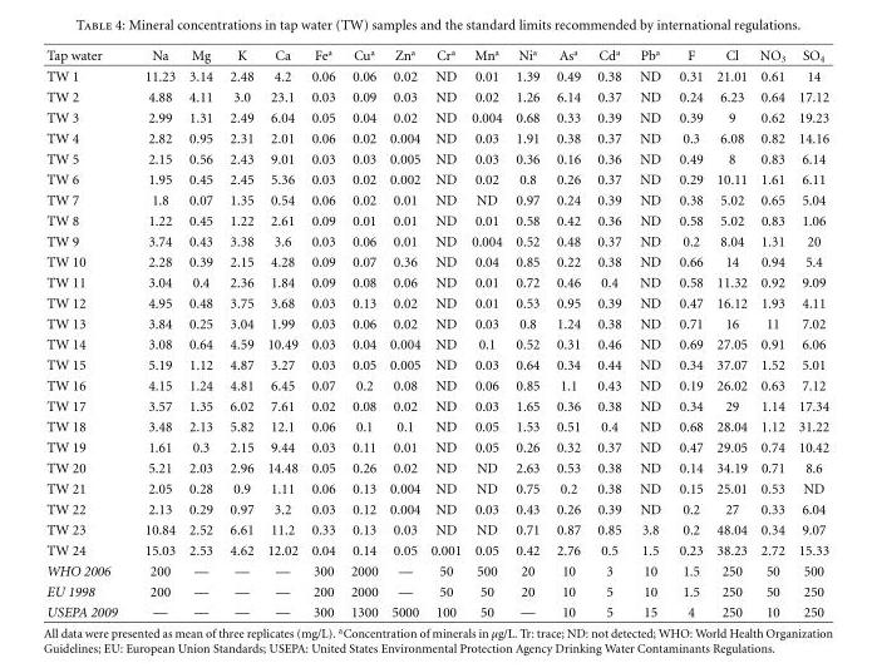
<table><thead><tr><td>Tap water</td><td>Na</td><td>Mg</td><td>K</td><td>Ca</td><td>Fe<sup>a</sup></td><td>Cu<sup>a</sup></td><td>Zn<sup>a</sup></td><td>Cr<sup>a</sup></td><td>Mn<sup>a</sup></td><td>Ni<sup>a</sup></td><td>As<sup>a</sup></td><td>Cd<sup>a</sup></td><td>Pb<sup>a</sup></td><td>F</td><td>Cl</td><td>NO<sub>3</sub></td><td>SO<sub>4</sub></td></tr></thead><tbody><tr><td>TW 1</td><td>11.23</td><td>3.14</td><td>2.48</td><td>4.2</td><td>0.06</td><td>0.06</td><td>0.02</td><td>ND</td><td>0.01</td><td>1.39</td><td>0.49</td><td>0.38</td><td>ND</td><td>0.31</td><td>21.01</td><td>0.61</td><td>14</td></tr><tr><td>TW 2</td><td>4.88</td><td>4.11</td><td>3.0</td><td>23.1</td><td>0.03</td><td>0.09</td><td>0.03</td><td>ND</td><td>0.02</td><td>1.26</td><td>6.14</td><td>0.37</td><td>ND</td><td>0.24</td><td>6.23</td><td>0.64</td><td>17.12</td></tr><tr><td>TW 3</td><td>2.99</td><td>1.31</td><td>2.49</td><td>6.04</td><td>0.05</td><td>0.04</td><td>0.02</td><td>ND</td><td>0.004</td><td>0.68</td><td>0.33</td><td>0.39</td><td>ND</td><td>0.39</td><td>9</td><td>0.62</td><td>19.23</td></tr><tr><td>TW 4</td><td>2.82</td><td>0.95</td><td>2.31</td><td>2.01</td><td>0.06</td><td>0.02</td><td>0.004</td><td>ND</td><td>0.03</td><td>1.91</td><td>0.38</td><td>0.37</td><td>ND</td><td>0.3</td><td>6.08</td><td>0.82</td><td>14.16</td></tr><tr><td>TW 5</td><td>2.15</td><td>0.56</td><td>2.43</td><td>9.01</td><td>0.03</td><td>0.03</td><td>0.005</td><td>ND</td><td>0.03</td><td>0.36</td><td>0.16</td><td>0.36</td><td>ND</td><td>0.49</td><td>8</td><td>0.83</td><td>6.14</td></tr><tr><td>TW 6</td><td>1.95</td><td>0.45</td><td>2.45</td><td>5.36</td><td>0.03</td><td>0.02</td><td>0.002</td><td>ND</td><td>0.02</td><td>0.8</td><td>0.26</td><td>0.37</td><td>ND</td><td>0.29</td><td>10.11</td><td>1.61</td><td>6.11</td></tr><tr><td>TW 7</td><td>1.8</td><td>0.07</td><td>1.35</td><td>0.54</td><td>0.06</td><td>0.02</td><td>0.01</td><td>ND</td><td>ND</td><td>0.97</td><td>0.24</td><td>0.39</td><td>ND</td><td>0.38</td><td>5.02</td><td>0.65</td><td>5.04</td></tr><tr><td>TW 8</td><td>1.22</td><td>0.45</td><td>1.22</td><td>2.61</td><td>0.09</td><td>0.01</td><td>0.01</td><td>ND</td><td>0.01</td><td>0.58</td><td>0.42</td><td>0.36</td><td>ND</td><td>0.58</td><td>5.02</td><td>0.83</td><td>1.06</td></tr><tr><td>TW 9</td><td>3.74</td><td>0.43</td><td>3.38</td><td>3.6</td><td>0.03</td><td>0.06</td><td>0.01</td><td>ND</td><td>0.004</td><td>0.52</td><td>0.48</td><td>0.37</td><td>ND</td><td>0.2</td><td>8.04</td><td>1.31</td><td>20</td></tr><tr><td>TW 10</td><td>2.28</td><td>0.39</td><td>2.15</td><td>4.28</td><td>0.09</td><td>0.07</td><td>0.36</td><td>ND</td><td>0.04</td><td>0.85</td><td>0.22</td><td>0.38</td><td>ND</td><td>0.66</td><td>14</td><td>0.94</td><td>5.4</td></tr><tr><td>TW 11</td><td>3.04</td><td>0.4</td><td>2.36</td><td>1.84</td><td>0.09</td><td>0.08</td><td>0.06</td><td>ND</td><td>0.01</td><td>0.72</td><td>0.46</td><td>0.4</td><td>ND</td><td>0.58</td><td>11.32</td><td>0.92</td><td>9.09</td></tr><tr><td>TW 12</td><td>4.95</td><td>0.48</td><td>3.75</td><td>3.68</td><td>0.03</td><td>0.13</td><td>0.02</td><td>ND</td><td>0.01</td><td>0.53</td><td>0.95</td><td>0.39</td><td>ND</td><td>0.47</td><td>16.12</td><td>1.93</td><td>4.11</td></tr><tr><td>TW 13</td><td>3.84</td><td>0.25</td><td>3.04</td><td>1.99</td><td>0.03</td><td>0.06</td><td>0.02</td><td>ND</td><td>0.03</td><td>0.8</td><td>1.24</td><td>0.38</td><td>ND</td><td>0.71</td><td>16</td><td>11</td><td>7.02</td></tr><tr><td>TW 14</td><td>3.08</td><td>0.64</td><td>4.59</td><td>10.49</td><td>0.03</td><td>0.04</td><td>0.004</td><td>ND</td><td>0.1</td><td>0.52</td><td>0.31</td><td>0.46</td><td>ND</td><td>0.69</td><td>27.05</td><td>0.91</td><td>6.06</td></tr><tr><td>TW 15</td><td>5.19</td><td>1.12</td><td>4.87</td><td>3.27</td><td>0.03</td><td>0.05</td><td>0.005</td><td>ND</td><td>0.03</td><td>0.64</td><td>0.34</td><td>0.44</td><td>ND</td><td>0.34</td><td>37.07</td><td>1.52</td><td>5.01</td></tr><tr><td>TW 16</td><td>4.15</td><td>1.24</td><td>4.81</td><td>6.45</td><td>0.07</td><td>0.2</td><td>0.08</td><td>ND</td><td>0.06</td><td>0.85</td><td>1.1</td><td>0.43</td><td>ND</td><td>0.19</td><td>26.02</td><td>0.63</td><td>7.12</td></tr><tr><td>TW 17</td><td>3.57</td><td>1.35</td><td>6.02</td><td>7.61</td><td>0.02</td><td>0.08</td><td>0.02</td><td>ND</td><td>0.03</td><td>1.65</td><td>0.36</td><td>0.38</td><td>ND</td><td>0.34</td><td>29</td><td>1.14</td><td>17.34</td></tr><tr><td>TW 18</td><td>3.48</td><td>2.13</td><td>5.82</td><td>12.1</td><td>0.06</td><td>0.1</td><td>0.1</td><td>ND</td><td>0.05</td><td>1.53</td><td>0.51</td><td>0.4</td><td>ND</td><td>0.68</td><td>28.04</td><td>1.12</td><td>31.22</td></tr><tr><td>TW 19</td><td>1.61</td><td>0.3</td><td>2.15</td><td>9.44</td><td>0.03</td><td>0.11</td><td>0.01</td><td>ND</td><td>0.05</td><td>0.26</td><td>0.32</td><td>0.37</td><td>ND</td><td>0.47</td><td>29.05</td><td>0.74</td><td>10.42</td></tr><tr><td>TW 20</td><td>5.21</td><td>2.03</td><td>2.96</td><td>14.48</td><td>0.05</td><td>0.26</td><td>0.02</td><td>ND</td><td>ND</td><td>2.63</td><td>0.53</td><td>0.38</td><td>ND</td><td>0.14</td><td>34.19</td><td>0.71</td><td>8.6</td></tr><tr><td>TW 21</td><td>2.05</td><td>0.28</td><td>0.9</td><td>1.11</td><td>0.06</td><td>0.13</td><td>0.004</td><td>ND</td><td>ND</td><td>0.75</td><td>0.2</td><td>0.38</td><td>ND</td><td>0.15</td><td>25.01</td><td>0.53</td><td>ND</td></tr><tr><td>TW 22</td><td>2.13</td><td>0.29</td><td>0.97</td><td>3.2</td><td>0.03</td><td>0.12</td><td>0.004</td><td>ND</td><td>0.03</td><td>0.43</td><td>0.26</td><td>0.39</td><td>ND</td><td>0.2</td><td>27</td><td>0.33</td><td>6.04</td></tr><tr><td>TW 23</td><td>10.84</td><td>2.52</td><td>6.61</td><td>11.2</td><td>0.33</td><td>0.13</td><td>0.03</td><td>ND</td><td>ND</td><td>0.71</td><td>0.87</td><td>0.85</td><td>3.8</td><td>0.2</td><td>48.04</td><td>0.34</td><td>9.07</td></tr><tr><td>TW 24</td><td>15.03</td><td>2.53</td><td>4.62</td><td>12.02</td><td>0.04</td><td>0.14</td><td>0.05</td><td>0.001</td><td>0.05</td><td>0.42</td><td>2.76</td><td>0.5</td><td>1.5</td><td>0.23</td><td>38.23</td><td>2.72</td><td>15.33</td></tr><tr><td>WHO 2006</td><td>200</td><td>—</td><td>—</td><td>—</td><td>300</td><td>2000</td><td>—</td><td>50</td><td>500</td><td>20</td><td>10</td><td>3</td><td>10</td><td>1.5</td><td>250</td><td>50</td><td>500</td></tr><tr><td>EU 1998</td><td>200</td><td>—</td><td>—</td><td>—</td><td>200</td><td>2000</td><td>—</td><td>50</td><td>50</td><td>20</td><td>10</td><td>5</td><td>10</td><td>1.5</td><td>250</td><td>50</td><td>250</td></tr><tr><td>USEPA 2009</td><td>—</td><td>—</td><td>—</td><td>—</td><td>300</td><td>1300</td><td>5000</td><td>100</td><td>50</td><td>—</td><td>10</td><td>5</td><td>15</td><td>4</td><td>250</td><td>10</td><td>250</td></tr></tbody></table>